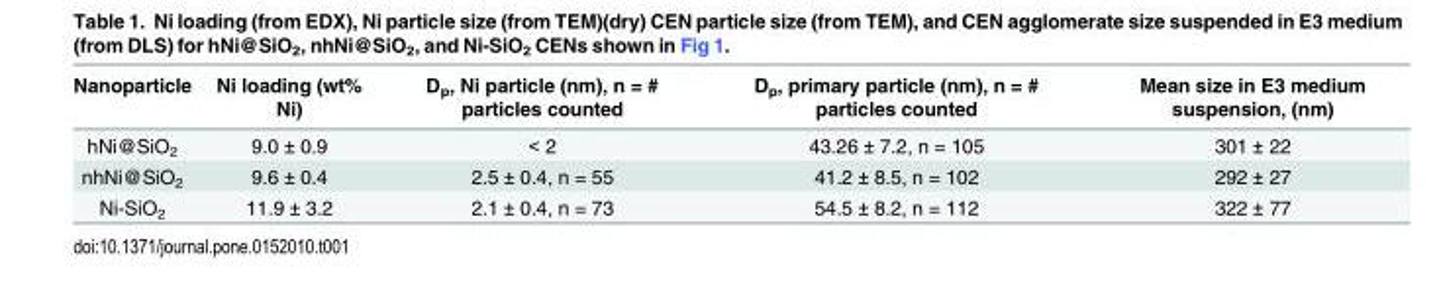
<table><thead><tr><td>Nanoparticle</td><td>Ni loading (wt% Ni)</td><td>D<sub>p</sub>, Ni particle (nm), n = # particles counted</td><td>D<sub>p</sub>, primary particle (nm), n = # particles counted</td><td>Mean size in E3 medium suspension, (nm)</td></tr></thead><tbody><tr><td>hNi@SiO<sub>2</sub></td><td>9.0 ± 0.9</td><td>&lt; 2</td><td>43.26 ± 7.2, n = 105</td><td>301 ± 22</td></tr><tr><td>nhNi@SiO<sub>2</sub></td><td>9.6 ± 0.4</td><td>2.5 ± 0.4, n = 55</td><td>41.2 ± 8.5, n = 102</td><td>292 ± 27</td></tr><tr><td>Ni-SiO<sub>2</sub></td><td>11.9 ± 3.2</td><td>2.1 ± 0.4, n = 73</td><td>54.5 ± 8.2, n = 112</td><td>322 ± 77</td></tr></tbody></table>